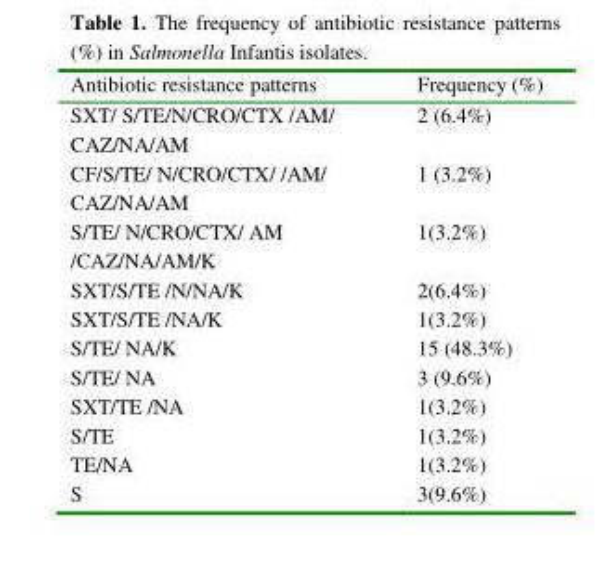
<table><thead><tr><td>Antibiotic resistance patterns</td><td>Frequency (%)</td></tr></thead><tbody><tr><td>SXT/ S/TE/N/CRO/CTX /AM/ CAZ/NA/AM</td><td>2 (6.4%)</td></tr><tr><td>CF/S/TE/ N/CRO/CTX/ /AM/ CAZ/NA/AM</td><td>1 (3.2%)</td></tr><tr><td>S/TE/ N/CRO/CTX/ AM /CAZ/NA/AM/K</td><td>1(3.2%)</td></tr><tr><td>SXT/S/TE /N/NA/K</td><td>2(6.4%)</td></tr><tr><td>SXT/S/TE /NA/K</td><td>1(3.2%)</td></tr><tr><td>S/TE/ NA/K</td><td>15 (48.3%)</td></tr><tr><td>S/TE/ NA</td><td>3 (9.6%)</td></tr><tr><td>SXT/TE /NA</td><td>1(3.2%)</td></tr><tr><td>S/TE</td><td>1(3.2%)</td></tr><tr><td>TE/NA</td><td>1(3.2%)</td></tr><tr><td>S</td><td>3(9.6%)</td></tr></tbody></table>